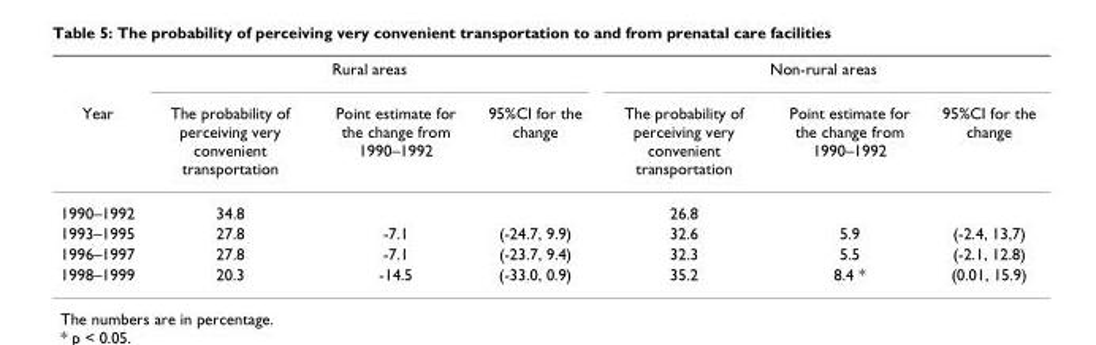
<table><thead><tr><td rowspan="2">Year</td><td colspan="3">Rural areas</td><td colspan="3">Non-rural areas</td></tr><tr><td>The probability of perceiving very convenient transportation</td><td>Point estimate for the change from 1990–1992</td><td>95%CI for the change</td><td>The probability of perceiving very convenient transportation</td><td>Point estimate for the change from 1990–1992</td><td>95%CI for the change</td></tr></thead><tbody><tr><td>1990–1992</td><td>34.8</td><td></td><td></td><td>26.8</td><td></td><td></td></tr><tr><td>1993–1995</td><td>27.8</td><td>-7.1</td><td>(-24.7, 9.9)</td><td>32.6</td><td>5.9</td><td>(-2.4, 13,7)</td></tr><tr><td>1996–1997</td><td>27.8</td><td>-7.1</td><td>(-23.7, 9.4)</td><td>32.3</td><td>5.5</td><td>(-2.1, 12.8)</td></tr><tr><td>1998–1999</td><td>20.3</td><td>-14.5</td><td>(-33.0, 0.9)</td><td>35.2</td><td>8.4 *</td><td>(0.01, 15.9)</td></tr></tbody></table>